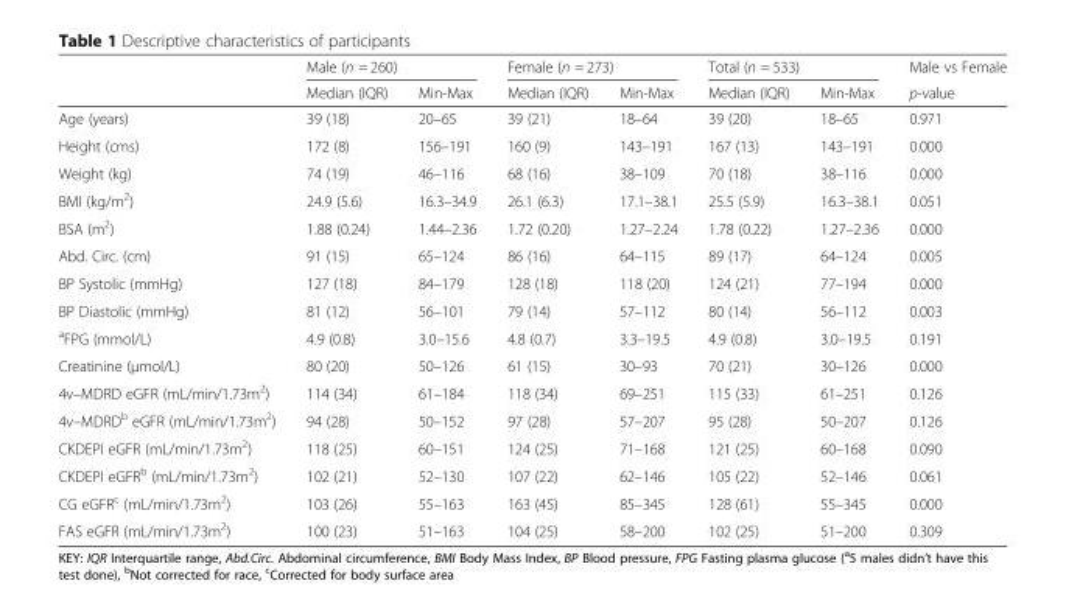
<table><thead><tr><td rowspan="2"></td><td colspan="2">Male (n = 260)</td><td colspan="2">Female (n = 273)</td><td colspan="2">Total (n = 533)</td><td rowspan="2">Male vs Female p-value</td></tr><tr><td>Median (IQR)</td><td>Min-Max</td><td>Median (IQR)</td><td>Min-Max</td><td>Median (IQR)</td><td>Min-Max</td></tr></thead><tbody><tr><td>Age (years)</td><td>39 (18)</td><td>20–65</td><td>39 (21)</td><td>18–64</td><td>39 (20)</td><td>18–65</td><td>0.971</td></tr><tr><td>Height (cms)</td><td>172 (8)</td><td>156–191</td><td>160 (9)</td><td>143–191</td><td>167 (13)</td><td>143–191</td><td>0.000</td></tr><tr><td>Weight (kg)</td><td>74 (19)</td><td>46–116</td><td>68 (16)</td><td>38–109</td><td>70 (18)</td><td>38–116</td><td>0.000</td></tr><tr><td>BMI (kg/m<sup>2</sup>)</td><td>24.9 (5.6)</td><td>16.3–34.9</td><td>26.1 (6.3)</td><td>17.1–38.1</td><td>25.5 (5.9)</td><td>16.3–38.1</td><td>0.051</td></tr><tr><td>BSA (m<sup>2</sup>)</td><td>1.88 (0.24)</td><td>1.44–2.36</td><td>1.72 (0.20)</td><td>1.27–2.24</td><td>1.78 (0.22)</td><td>1.27–2.36</td><td>0.000</td></tr><tr><td>Abd. Circ. (cm)</td><td>91 (15)</td><td>65–124</td><td>86 (16)</td><td>64–115</td><td>89 (17)</td><td>64–124</td><td>0.005</td></tr><tr><td>BP Systolic (mmHg)</td><td>127 (18)</td><td>84–179</td><td>128 (18)</td><td>118 (20)</td><td>124 (21)</td><td>77–194</td><td>0.000</td></tr><tr><td>BP Diastolic (mmHg)</td><td>81 (12)</td><td>56–101</td><td>79 (14)</td><td>57–112</td><td>80 (14)</td><td>56–112</td><td>0.003</td></tr><tr><td><sup>a</sup>FPG (mmol/L)</td><td>4.9 (0.8)</td><td>3.0–15.6</td><td>4.8 (0.7)</td><td>3.3–19.5</td><td>4.9 (0.8)</td><td>3.0–19.5</td><td>0.191</td></tr><tr><td>Creatinine (μmol/L)</td><td>80 (20)</td><td>50–126</td><td>61 (15)</td><td>30–93</td><td>70 (21)</td><td>30–126</td><td>0.000</td></tr><tr><td>4v–MDRD eGFR (mL/min/1.73m<sup>2</sup>)</td><td>114 (34)</td><td>61–184</td><td>118 (34)</td><td>69–251</td><td>115 (33)</td><td>61–251</td><td>0.126</td></tr><tr><td>4v–MDRD<sup>b</sup> eGFR (mL/min/1.73m<sup>2</sup>)</td><td>94 (28)</td><td>50–152</td><td>97 (28)</td><td>57–207</td><td>95 (28)</td><td>50–207</td><td>0.126</td></tr><tr><td>CKDEPI eGFR (mL/min/1.73m<sup>2</sup>)</td><td>118 (25)</td><td>60–151</td><td>124 (25)</td><td>71–168</td><td>121 (25)</td><td>60–168</td><td>0.090</td></tr><tr><td>CKDEPI eGFR<sup>b</sup> (mL/min/1.73m<sup>2</sup>)</td><td>102 (21)</td><td>52–130</td><td>107 (22)</td><td>62–146</td><td>105 (22)</td><td>52–146</td><td>0.061</td></tr><tr><td>CG eGFR<sup>c</sup> (mL/min/1.73m<sup>2</sup>)</td><td>103 (26)</td><td>55–163</td><td>163 (45)</td><td>85–345</td><td>128 (61)</td><td>55–345</td><td>0.000</td></tr><tr><td>FAS eGFR (mL/min/1.73m<sup>2</sup>)</td><td>100 (23)</td><td>51–163</td><td>104 (25)</td><td>58–200</td><td>102 (25)</td><td>51–200</td><td>0.309</td></tr></tbody></table>